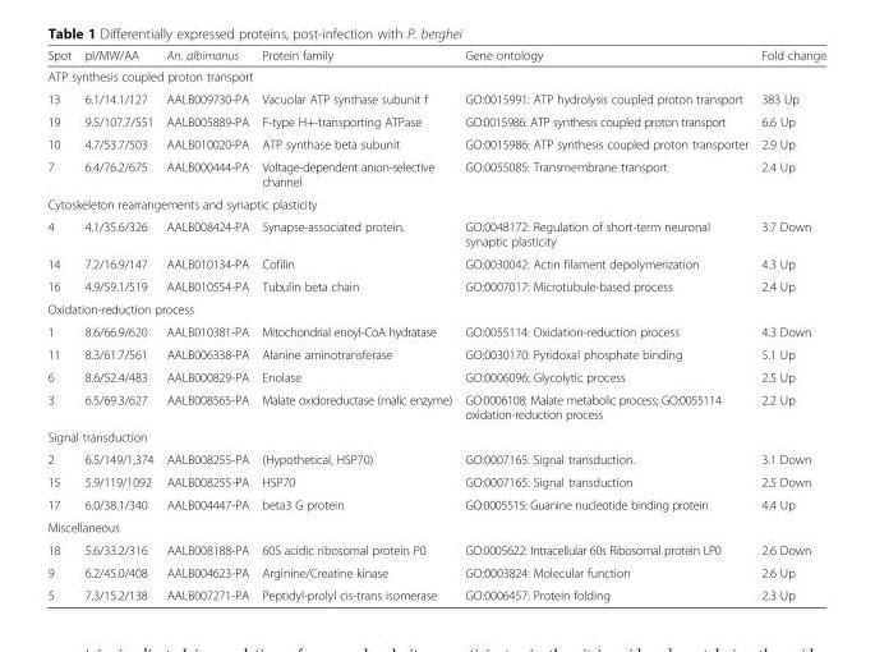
<table><thead><tr><td>Spot</td><td>pI/MW/AA</td><td>An. albimanus</td><td>Protein family</td><td>Gene ontology</td><td>Fold change</td></tr></thead><tbody><tr><td colspan="6">ATP synthesis coupled proton transport</td></tr><tr><td>13</td><td>6.1/14.1/127</td><td>AALB009730-PA</td><td>Vacuolar ATP synthase subunit f</td><td>GO:0015991: ATP hydrolysis coupled proton transport</td><td>383 Up</td></tr><tr><td>19</td><td>9.5/107.7/551</td><td>AALB005889-PA</td><td>F-type H+-transporting ATPase</td><td>GO:0015986: ATP synthesis coupled proton transport</td><td>6.6 Up</td></tr><tr><td>10</td><td>4.7/53.7/503</td><td>AALB010020-PA</td><td>ATP synthase beta subunit</td><td>GO:0015986: ATP synthesis coupled proton transporter</td><td>2.9 Up</td></tr><tr><td>7</td><td>6.4/76.2/675</td><td>AALB000444-PA</td><td>Voltage-dependent anion-selective channel</td><td>GO:0055085: Transmembrane transport</td><td>2.4 Up</td></tr><tr><td colspan="6">Cytoskeleton rearrangements and synaptic plasticity</td></tr><tr><td>4</td><td>4.1/35.6/326</td><td>AALB008424-PA</td><td>Synapse-associated protein.</td><td>GO:0048172: Regulation of short-term neuronal synaptic plasticity</td><td>3.7 Down</td></tr><tr><td>14</td><td>7.2/16.9/147</td><td>AALB010134-PA</td><td>Cofilin</td><td>GO:0030042: Actin filament depolymerization</td><td>4.3 Up</td></tr><tr><td>16</td><td>4.9/59.1/519</td><td>AALB010554-PA</td><td>Tubulin beta chain</td><td>GO:0007017: Microtubule-based process</td><td>2.4 Up</td></tr><tr><td colspan="6">Oxidation-reduction process</td></tr><tr><td>1</td><td>8.6/66.9/620</td><td>AALB010381-PA</td><td>Mitochondrial enoyl-CoA hydratase</td><td>GO:0055114: Oxidation-reduction process</td><td>4.3 Down</td></tr><tr><td>11</td><td>8.3/61.7/561</td><td>AALB006338-PA</td><td>Alanine aminotransferase</td><td>GO:0030170: Pyridoxal phosphate binding</td><td>5.1 Up</td></tr><tr><td>6</td><td>8.6/52.4/483</td><td>AALB000829-PA</td><td>Enolase</td><td>GO:0006096: Glycolytic process</td><td>2.5 Up</td></tr><tr><td>3</td><td>6.5/69.3/627</td><td>AALB008565-PA</td><td>Malate oxidoreductase (malic enzyme)</td><td>GO:0006108: Malate metabolic process; GO:0055114 oxidation-reduction process</td><td>2.2 Up</td></tr><tr><td colspan="6">Signal transduction</td></tr><tr><td>2</td><td>6.5/149/1,374</td><td>AALB008255-PA</td><td>(Hypothetical, HSP70)</td><td>GO:0007165: Signal transduction.</td><td>3.1 Down</td></tr><tr><td>15</td><td>5.9/119/1092</td><td>AALB008255-PA</td><td>HSP70</td><td>GO:0007165: Signal transduction</td><td>2.5 Down</td></tr><tr><td>17</td><td>6.0/38.1/340</td><td>AALB004447-PA</td><td>beta3 G protein</td><td>GO:0005515: Guanine nucleotide binding protein</td><td>4.4 Up</td></tr><tr><td colspan="6">Miscellaneous</td></tr><tr><td>18</td><td>5.6/33.2/316</td><td>AALB008188-PA</td><td>60S acidic ribosomal protein P0</td><td>GO:0005622: Intracellular 60s Ribosomal protein LP0</td><td>2.6 Down</td></tr><tr><td>9</td><td>6.2/45.0/408</td><td>AALB004623-PA</td><td>Arginine/Creatine kinase</td><td>GO:0003824: Molecular function</td><td>2.6 Up</td></tr><tr><td>5</td><td>7.3/15.2/138</td><td>AALB007271-PA</td><td>Peptidyl-prolyl cis-trans isomerase</td><td>GO:0006457: Protein folding</td><td>2.3 Up</td></tr></tbody></table>